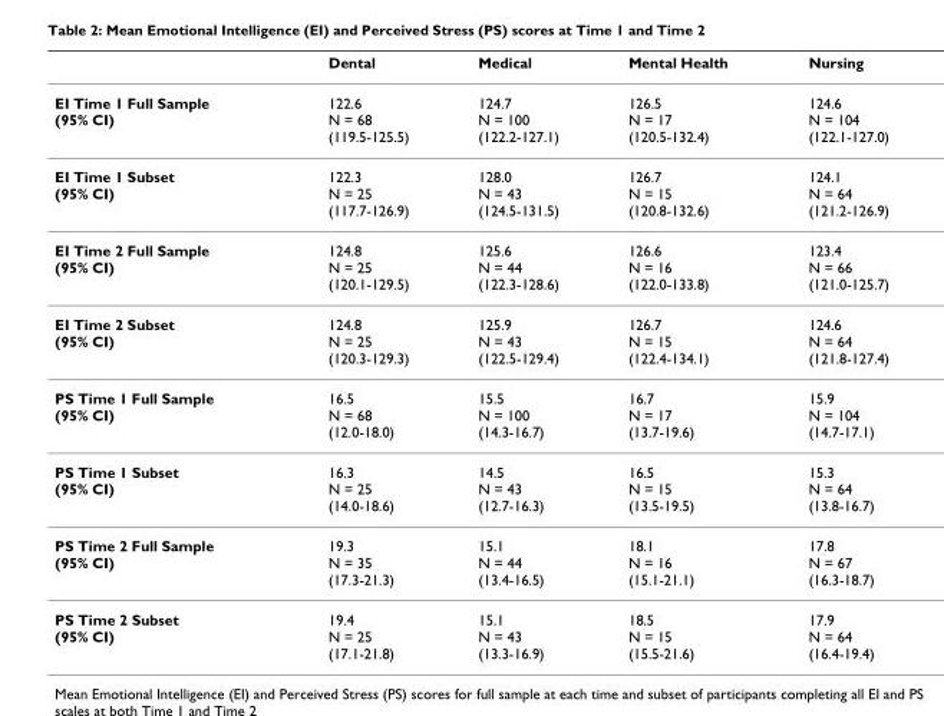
<table><thead><tr><td></td><td>Dental</td><td>Medical</td><td>Mental Health</td><td>Nursing</td></tr></thead><tbody><tr><td>EI Time 1 Full Sample (95% CI)</td><td>122.6 N = 68 (119.5-125.5)</td><td>124.7 N = 100 (122.2-127.1)</td><td>126.5 N = 17 (120.5-132.4)</td><td>124.6 N = 104 (122.1-127.0)</td></tr><tr><td>EI Time 1 Subset (95% CI)</td><td>122.3 N = 25 (117.7-126.9)</td><td>128.0 N = 43 (124.5-131.5)</td><td>126.7 N = 15 (120.8-132.6)</td><td>124.1 N = 64 (121.2-126.9)</td></tr><tr><td>EI Time 2 Full Sample (95% CI)</td><td>124.8 N = 25 (120.1-129.5)</td><td>125.6 N = 44 (122.3-128.6)</td><td>126.6 N = 16 (122.0-133.8)</td><td>123.4 N = 66 (121.0-125.7)</td></tr><tr><td>EI Time 2 Subset (95% CI)</td><td>124.8 N = 25 (120.3-129.3)</td><td>125.9 N = 43 (122.5-129.4)</td><td>126.7 N = 15 (122.4-134.1)</td><td>124.6 N = 64 (121.8-127.4)</td></tr><tr><td>PS Time 1 Full Sample (95% CI)</td><td>16.5 N = 68 (12.0-18.0)</td><td>15.5 N = 100 (14.3-16.7)</td><td>16.7 N = 17 (13.7-19.6)</td><td>15.9 N = 104 (14.7-17.1)</td></tr><tr><td>PS Time 1 Subset (95% CI)</td><td>16.3 N = 25 (14.0-18.6)</td><td>14.5 N = 43 (12.7-16.3)</td><td>16.5 N = 15 (13.5-19.5)</td><td>15.3 N = 64 (13.8-16.7)</td></tr><tr><td>PS Time 2 Full Sample (95% CI)</td><td>19.3 N = 35 (17.3-21.3)</td><td>15.1 N = 44 (13.4-16.5)</td><td>18.1 N = 16 (15.1-21.1)</td><td>17.8 N = 67 (16.3-18.7)</td></tr><tr><td>PS Time 2 Subset (95% CI)</td><td>19.4 N = 25 (17.1-21.8)</td><td>15.1 N = 43 (13.3-16.9)</td><td>18.5 N = 15 (15.5-21.6)</td><td>17.9 N = 64 (16.4-19.4)</td></tr></tbody></table>